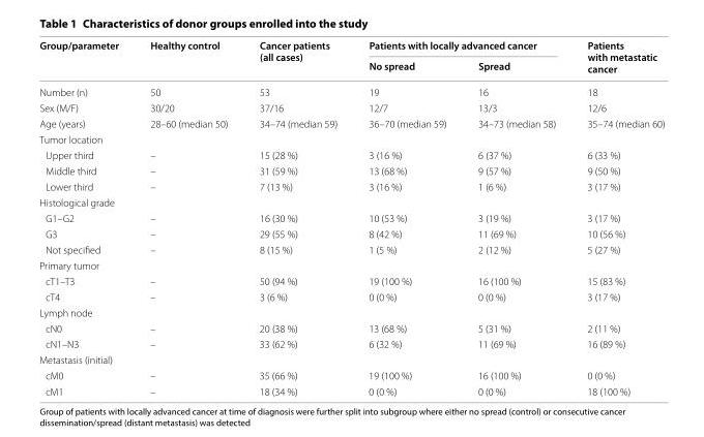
<table><thead><tr><td rowspan="2">Group/parameter</td><td rowspan="2">Healthy control</td><td rowspan="2">Cancer patients (all cases)</td><td colspan="2">Patients with locally advanced cancer</td><td rowspan="2">Patients with metastatic cancer</td></tr><tr><td>No spread</td><td>Spread</td></tr></thead><tbody><tr><td>Number (n)</td><td>50</td><td>53</td><td>19</td><td>16</td><td>18</td></tr><tr><td>Sex (M/F)</td><td>30/20</td><td>37/16</td><td>12/7</td><td>13/3</td><td>12/6</td></tr><tr><td>Age (years)</td><td>28–60 (median 50)</td><td>34–74 (median 59)</td><td>36–70 (median 59)</td><td>34–73 (median 58)</td><td>35–74 (median 60)</td></tr><tr><td colspan="6">Tumor location</td></tr><tr><td>Upper third</td><td>–</td><td>15 (28 %)</td><td>3 (16 %)</td><td>6 (37 %)</td><td>6 (33 %)</td></tr><tr><td>Middle third</td><td>–</td><td>31 (59 %)</td><td>13 (68 %)</td><td>9 (57 %)</td><td>9 (50 %)</td></tr><tr><td>Lower third</td><td>–</td><td>7 (13 %)</td><td>3 (16 %)</td><td>1 (6 %)</td><td>3 (17 %)</td></tr><tr><td colspan="6">Histological grade</td></tr><tr><td>G1–G2</td><td>–</td><td>16 (30 %)</td><td>10 (53 %)</td><td>3 (19 %)</td><td>3 (17 %)</td></tr><tr><td>G3</td><td>–</td><td>29 (55 %)</td><td>8 (42 %)</td><td>11 (69 %)</td><td>10 (56 %)</td></tr><tr><td>Not specified</td><td>–</td><td>8 (15 %)</td><td>1 (5 %)</td><td>2 (12 %)</td><td>5 (27 %)</td></tr><tr><td colspan="6">Primary tumor</td></tr><tr><td>cT1–T3</td><td>–</td><td>50 (94 %)</td><td>19 (100 %)</td><td>16 (100 %)</td><td>15 (83 %)</td></tr><tr><td>cT4</td><td>–</td><td>3 (6 %)</td><td>0 (0 %)</td><td>0 (0 %)</td><td>3 (17 %)</td></tr><tr><td colspan="6">Lymph node</td></tr><tr><td>cN0</td><td>–</td><td>20 (38 %)</td><td>13 (68 %)</td><td>5 (31 %)</td><td>2 (11 %)</td></tr><tr><td>cN1–N3</td><td>–</td><td>33 (62 %)</td><td>6 (32 %)</td><td>11 (69 %)</td><td>16 (89 %)</td></tr><tr><td colspan="6">Metastasis (initial)</td></tr><tr><td>cM0</td><td>–</td><td>35 (66 %)</td><td>19 (100 %)</td><td>16 (100 %)</td><td>0 (0 %)</td></tr><tr><td>cM1</td><td>–</td><td>18 (34 %)</td><td>0 (0 %)</td><td>0 (0 %)</td><td>18 (100 %)</td></tr></tbody></table>